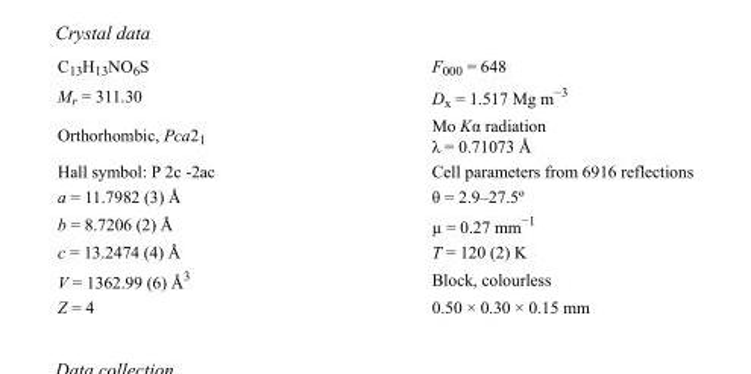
<table><tbody><tr><td>C<sub>13</sub>H<sub>13</sub>NO<sub>6</sub>S</td><td>F<sub>000</sub> = 648</td></tr><tr><td>M<sub>r</sub> = 311.30</td><td>D<sub>x</sub> = 1.517 Mg m<sup>−3</sup></td></tr><tr><td>Orthorhombic, Pca2<sub>1</sub></td><td>Mo Kα radiation λ = 0.71073 Å</td></tr><tr><td>Hall symbol: P 2c -2ac</td><td>Cell parameters from 6916 reflections</td></tr><tr><td>a = 11.7982 (3) Å</td><td>θ = 2.9–27.5º</td></tr><tr><td>b = 8.7206 (2) Å</td><td>µ = 0.27 mm<sup>−1</sup></td></tr><tr><td>c = 13.2474 (4) Å</td><td>T = 120 (2) K</td></tr><tr><td>V = 1362.99 (6) Å<sup>3</sup></td><td>Block, colourless</td></tr><tr><td>Z = 4</td><td>0.50 × 0.30 × 0.15 mm</td></tr></tbody></table>